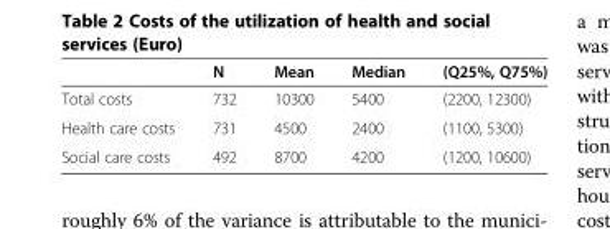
<table><thead><tr><td></td><td>N</td><td>Mean</td><td>Median</td><td>(Q25%, Q75%)</td></tr></thead><tbody><tr><td>Total costs</td><td>732</td><td>10300</td><td>5400</td><td>(2200, 12300)</td></tr><tr><td>Health care costs</td><td>731</td><td>4500</td><td>2400</td><td>(1100, 5300)</td></tr><tr><td>Social care costs</td><td>492</td><td>8700</td><td>4200</td><td>(1200, 10600)</td></tr></tbody></table>